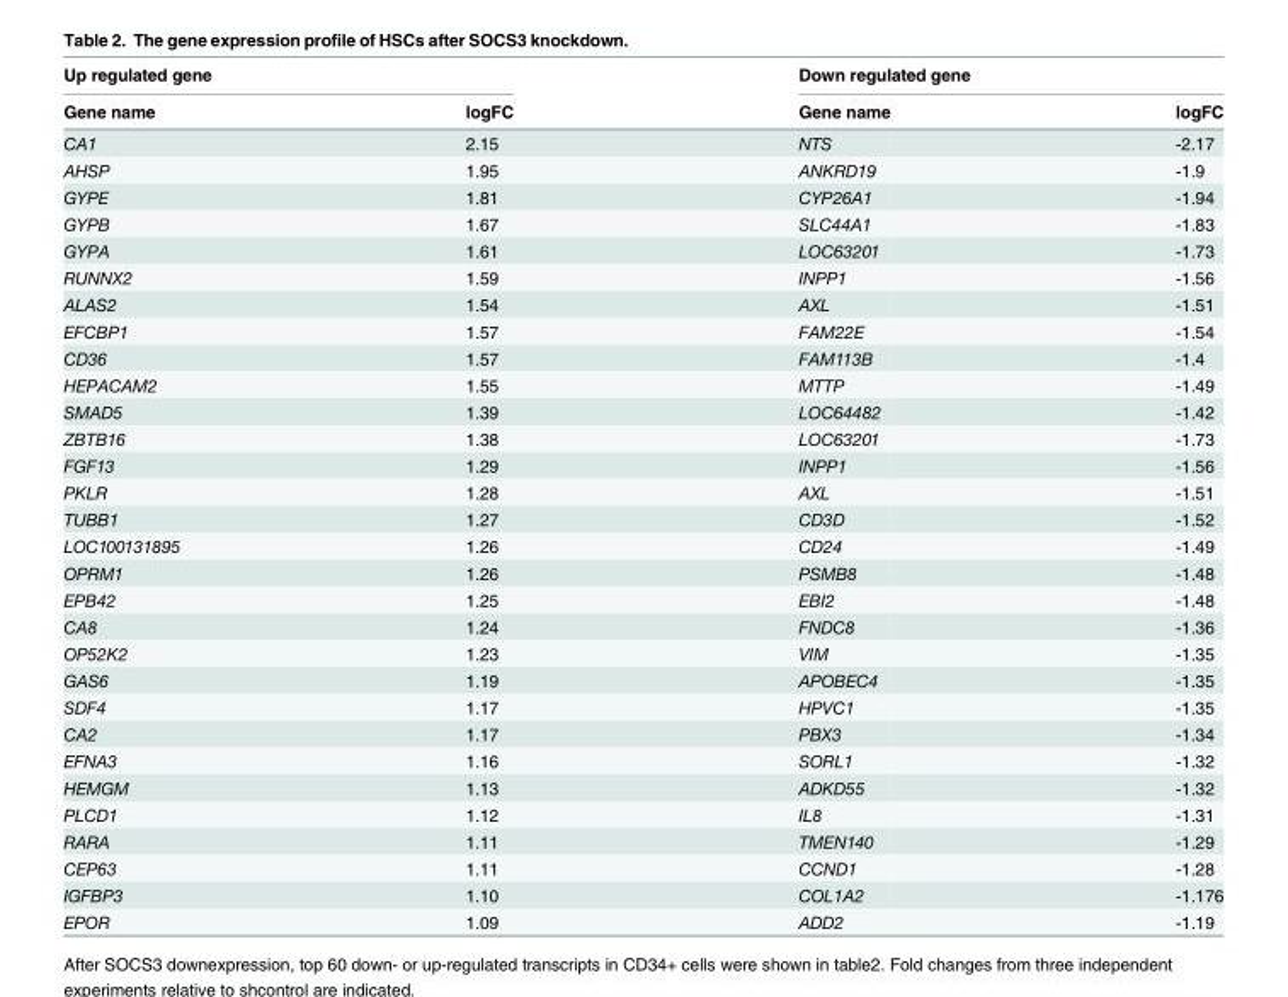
<table><thead><tr><td colspan="2">Up regulated gene</td><td colspan="2">Down regulated gene</td></tr><tr><td>Gene name</td><td>logFC</td><td>Gene name</td><td>logFC</td></tr></thead><tbody><tr><td>CA1</td><td>2.15</td><td>NTS</td><td>-2.17</td></tr><tr><td>AHSP</td><td>1.95</td><td>ANKRD19</td><td>-1.9</td></tr><tr><td>GYPE</td><td>1.81</td><td>CYP26A1</td><td>-1.94</td></tr><tr><td>GYPB</td><td>1.67</td><td>SLC44A1</td><td>-1.83</td></tr><tr><td>GYPA</td><td>1.61</td><td>LOC63201</td><td>-1.73</td></tr><tr><td>RUNNX2</td><td>1.59</td><td>INPP1</td><td>-1.56</td></tr><tr><td>ALAS2</td><td>1.54</td><td>AXL</td><td>-1.51</td></tr><tr><td>EFCBP1</td><td>1.57</td><td>FAM22E</td><td>-1.54</td></tr><tr><td>CD36</td><td>1.57</td><td>FAM113B</td><td>-1.4</td></tr><tr><td>HEPACAM2</td><td>1.55</td><td>MTTP</td><td>-1.49</td></tr><tr><td>SMAD5</td><td>1.39</td><td>LOC64482</td><td>-1.42</td></tr><tr><td>ZBTB16</td><td>1.38</td><td>LOC63201</td><td>-1.73</td></tr><tr><td>FGF13</td><td>1.29</td><td>INPP1</td><td>-1.56</td></tr><tr><td>PKLR</td><td>1.28</td><td>AXL</td><td>-1.51</td></tr><tr><td>TUBB1</td><td>1.27</td><td>CD3D</td><td>-1.52</td></tr><tr><td>LOC100131895</td><td>1.26</td><td>CD24</td><td>-1.49</td></tr><tr><td>OPRM1</td><td>1.26</td><td>PSMB8</td><td>-1.48</td></tr><tr><td>EPB42</td><td>1.25</td><td>EBI2</td><td>-1.48</td></tr><tr><td>CA8</td><td>1.24</td><td>FNDC8</td><td>-1.36</td></tr><tr><td>OP52K2</td><td>1.23</td><td>VIM</td><td>-1.35</td></tr><tr><td>GAS6</td><td>1.19</td><td>APOBEC4</td><td>-1.35</td></tr><tr><td>SDF4</td><td>1.17</td><td>HPVC1</td><td>-1.35</td></tr><tr><td>CA2</td><td>1.17</td><td>PBX3</td><td>-1.34</td></tr><tr><td>EFNA3</td><td>1.16</td><td>SORL1</td><td>-1.32</td></tr><tr><td>HEMGM</td><td>1.13</td><td>ADKD55</td><td>-1.32</td></tr><tr><td>PLCD1</td><td>1.12</td><td>IL8</td><td>-1.31</td></tr><tr><td>RARA</td><td>1.11</td><td>TMEN140</td><td>-1.29</td></tr><tr><td>CEP63</td><td>1.11</td><td>CCND1</td><td>-1.28</td></tr><tr><td>IGFBP3</td><td>1.10</td><td>COL1A2</td><td>-1.176</td></tr><tr><td>EPOR</td><td>1.09</td><td>ADD2</td><td>-1.19</td></tr></tbody></table>